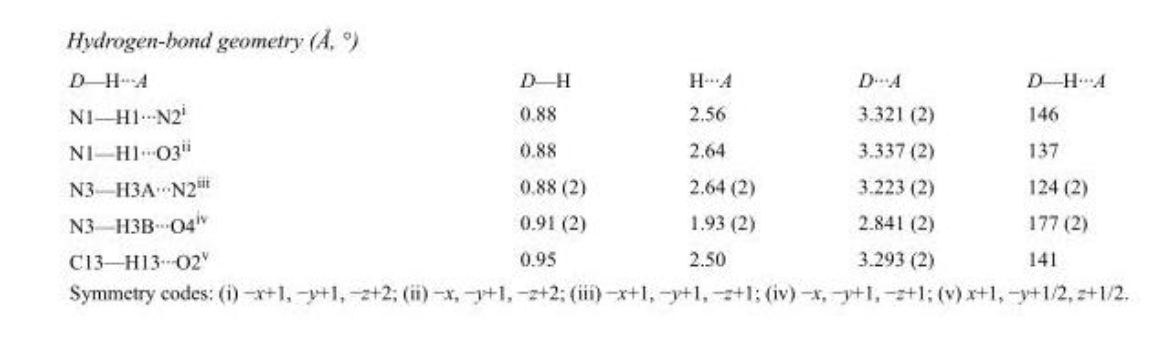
<table><tbody><tr><td>D—H···A</td><td>D—H</td><td>H···A</td><td>D···A</td><td>D—H···A</td></tr><tr><td>N1—H1···N2<sup>i</sup></td><td>0.88</td><td>2.56</td><td>3.321 (2)</td><td>146</td></tr><tr><td>N1—H1···O3<sup>ii</sup></td><td>0.88</td><td>2.64</td><td>3.337 (2)</td><td>137</td></tr><tr><td>N3—H3A···N2<sup>iii</sup></td><td>0.88 (2)</td><td>2.64 (2)</td><td>3.223 (2)</td><td>124 (2)</td></tr><tr><td>N3—H3B···O4<sup>iv</sup></td><td>0.91 (2)</td><td>1.93 (2)</td><td>2.841 (2)</td><td>177 (2)</td></tr><tr><td>C13—H13···O2<sup>v</sup></td><td>0.95</td><td>2.50</td><td>3.293 (2)</td><td>141</td></tr></tbody></table>